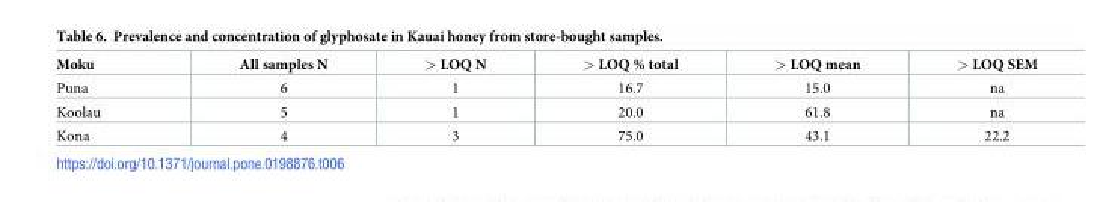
<table><thead><tr><td>Moku</td><td>All samples N</td><td>&gt; LOQ N</td><td>&gt; LOQ % total</td><td>&gt; LOQ mean</td><td>&gt; LOQ SEM</td></tr></thead><tbody><tr><td>Puna</td><td>6</td><td>1</td><td>16.7</td><td>15.0</td><td>na</td></tr><tr><td>Koolau</td><td>5</td><td>1</td><td>20.0</td><td>61.8</td><td>na</td></tr><tr><td>Kona</td><td>4</td><td>3</td><td>75.0</td><td>43.1</td><td>22.2</td></tr></tbody></table>